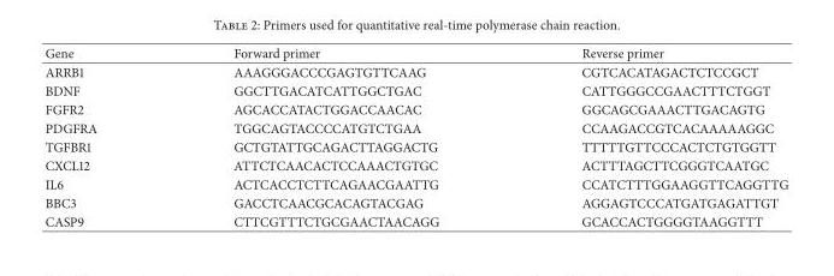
<table><thead><tr><td>Gene</td><td>Forward primer</td><td>Reverse primer</td></tr></thead><tbody><tr><td>ARRB1</td><td>AAAGGGACCCGAGTGTTCAAG</td><td>CGTCACATAGACTCTCCGCT</td></tr><tr><td>BDNF</td><td>GGCTTGACATCATTGGCTGAC</td><td>CATTGGGCCGAACTTTCTGGT</td></tr><tr><td>FGFR2</td><td>AGCACCATACTGGACCAACAC</td><td>GGCAGCGAAACTTGACAGTG</td></tr><tr><td>PDGFRA</td><td>TGGCAGTACCCCATGTCTGAA</td><td>CCAAGACCGTCACAAAAAGGC</td></tr><tr><td>TGFBR1</td><td>GCTGTATTGCAGACTTAGGACTG</td><td>TTTTTGTTCCCACTCTGTGGTT</td></tr><tr><td>CXCL12</td><td>ATTCTCAACACTCCAAACTGTGC</td><td>ACTTTAGCTTCGGGTCAATGC</td></tr><tr><td>IL6</td><td>ACTCACCTCTTCAGAACGAATTG</td><td>CCATCTTTGGAAGGTTCAGGTTG</td></tr><tr><td>BBC3</td><td>GACCTCAACGCACAGTACGAG</td><td>AGGAGTCCCATGATGAGATTGT</td></tr><tr><td>CASP9</td><td>CTTCGTTTCTGCGAACTAACAGG</td><td>GCACCACTGGGGTAAGGTTT</td></tr></tbody></table>